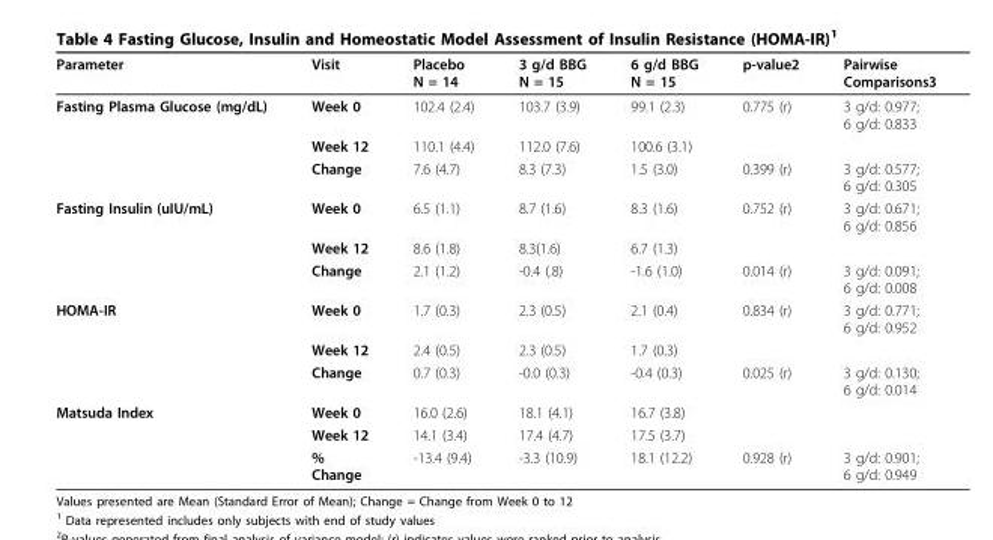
<table><thead><tr><td>Parameter</td><td>Visit</td><td>Placebo N = 14</td><td>3 g/d BBG N = 15</td><td>6 g/d BBG N = 15</td><td>p-value2</td><td>Pairwise Comparisons3</td></tr></thead><tbody><tr><td rowspan="3">Fasting Plasma Glucose (mg/dL)</td><td>Week 0</td><td>102.4 (2.4)</td><td>103.7 (3.9)</td><td>99.1 (2.3)</td><td>0.775 (r)</td><td>3 g/d: 0.977; 6 g/d: 0.833</td></tr><tr><td>Week 12</td><td>110.1 (4.4)</td><td>112.0 (7.6)</td><td>100.6 (3.1)</td><td></td><td></td></tr><tr><td>Change</td><td>7.6 (4.7)</td><td>8.3 (7.3)</td><td>1.5 (3.0)</td><td>0.399 (r)</td><td>3 g/d: 0.577; 6 g/d: 0.305</td></tr><tr><td rowspan="3">Fasting Insulin (uIU/mL)</td><td>Week 0</td><td>6.5 (1.1)</td><td>8.7 (1.6)</td><td>8.3 (1.6)</td><td>0.752 (r)</td><td>3 g/d: 0.671; 6 g/d: 0.856</td></tr><tr><td>Week 12</td><td>8.6 (1.8)</td><td>8.3(1.6)</td><td>6.7 (1.3)</td><td></td><td></td></tr><tr><td>Change</td><td>2.1 (1.2)</td><td>-0.4 (.8)</td><td>-1.6 (1.0)</td><td>0.014 (r)</td><td>3 g/d: 0.091; 6 g/d: 0.008</td></tr><tr><td rowspan="3">HOMA-IR</td><td>Week 0</td><td>1.7 (0.3)</td><td>2.3 (0.5)</td><td>2.1 (0.4)</td><td>0.834 (r)</td><td>3 g/d: 0.771; 6 g/d: 0.952</td></tr><tr><td>Week 12</td><td>2.4 (0.5)</td><td>2.3 (0.5)</td><td>1.7 (0.3)</td><td></td><td></td></tr><tr><td>Change</td><td>0.7 (0.3)</td><td>-0.0 (0.3)</td><td>-0.4 (0.3)</td><td>0.025 (r)</td><td>3 g/d: 0.130; 6 g/d: 0.014</td></tr><tr><td rowspan="3">Matsuda Index</td><td>Week 0</td><td>16.0 (2.6)</td><td>18.1 (4.1)</td><td>16.7 (3.8)</td><td></td><td></td></tr><tr><td>Week 12</td><td>14.1 (3.4)</td><td>17.4 (4.7)</td><td>17.5 (3.7)</td><td></td><td></td></tr><tr><td>% Change</td><td>-13.4 (9.4)</td><td>-3.3 (10.9)</td><td>18.1 (12.2)</td><td>0.928 (r)</td><td>3 g/d: 0.901; 6 g/d: 0.949</td></tr></tbody></table>